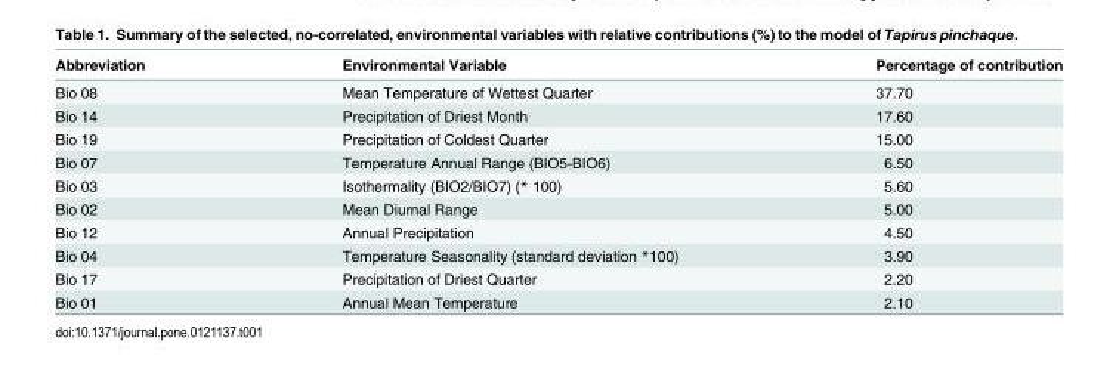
<table><thead><tr><td>Abbreviation</td><td>Environmental Variable</td><td>Percentage of contribution</td></tr></thead><tbody><tr><td>Bio 08</td><td>Mean Temperature of Wettest Quarter</td><td>37.70</td></tr><tr><td>Bio 14</td><td>Precipitation of Driest Month</td><td>17.60</td></tr><tr><td>Bio 19</td><td>Precipitation of Coldest Quarter</td><td>15.00</td></tr><tr><td>Bio 07</td><td>Temperature Annual Range (BIO5-BIO6)</td><td>6.50</td></tr><tr><td>Bio 03</td><td>Isothermality (BIO2/BIO7) (* 100)</td><td>5.60</td></tr><tr><td>Bio 02</td><td>Mean Diurnal Range</td><td>5.00</td></tr><tr><td>Bio 12</td><td>Annual Precipitation</td><td>4.50</td></tr><tr><td>Bio 04</td><td>Temperature Seasonality (standard deviation *100)</td><td>3.90</td></tr><tr><td>Bio 17</td><td>Precipitation of Driest Quarter</td><td>2.20</td></tr><tr><td>Bio 01</td><td>Annual Mean Temperature</td><td>2.10</td></tr></tbody></table>